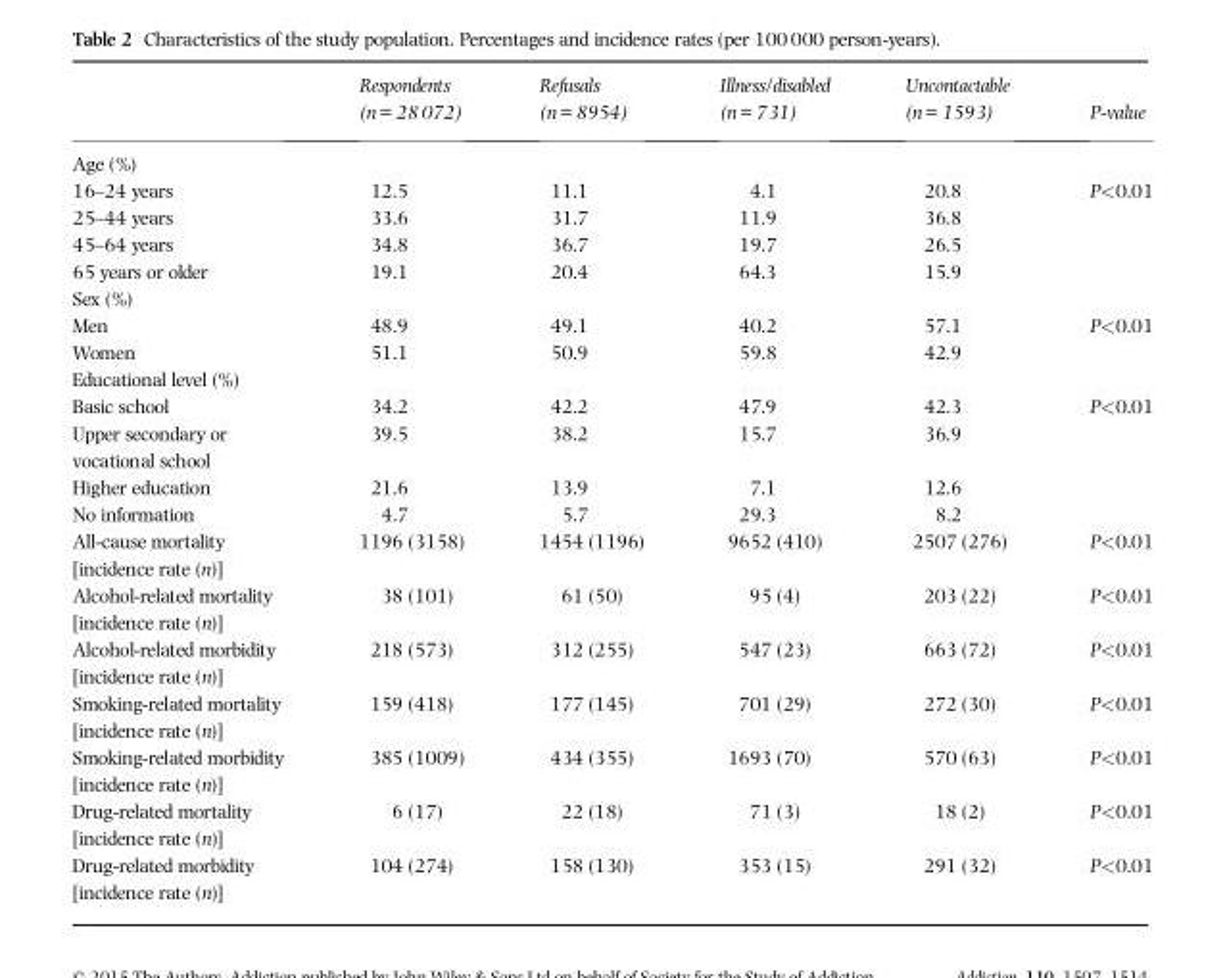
<table><thead><tr><td></td><td>Respondents (n = 28 072)</td><td>Refusals (n = 8954)</td><td>Illness/disabled (n = 731)</td><td>Uncontactable (n = 1593)</td><td>P-value</td></tr></thead><tbody><tr><td colspan="6">Age (%)</td></tr><tr><td>16–24 years</td><td>12.5</td><td>11.1</td><td>4.1</td><td>20.8</td><td>P&lt;0.01</td></tr><tr><td>25–44 years</td><td>33.6</td><td>31.7</td><td>11.9</td><td>36.8</td><td></td></tr><tr><td>45–64 years</td><td>34.8</td><td>36.7</td><td>19.7</td><td>26.5</td><td></td></tr><tr><td>65 years or older</td><td>19.1</td><td>20.4</td><td>64.3</td><td>15.9</td><td></td></tr><tr><td colspan="6">Sex (%)</td></tr><tr><td>Men</td><td>48.9</td><td>49.1</td><td>40.2</td><td>57.1</td><td>P&lt;0.01</td></tr><tr><td>Women</td><td>51.1</td><td>50.9</td><td>59.8</td><td>42.9</td><td></td></tr><tr><td colspan="6">Educational level (%)</td></tr><tr><td>Basic school</td><td>34.2</td><td>42.2</td><td>47.9</td><td>42.3</td><td>P&lt;0.01</td></tr><tr><td>Upper secondary or vocational school</td><td>39.5</td><td>38.2</td><td>15.7</td><td>36.9</td><td></td></tr><tr><td>Higher education</td><td>21.6</td><td>13.9</td><td>7.1</td><td>12.6</td><td></td></tr><tr><td>No information</td><td>4.7</td><td>5.7</td><td>29.3</td><td>8.2</td><td></td></tr><tr><td>All-cause mortality [incidence rate (n)]</td><td>1196 (3158)</td><td>1454 (1196)</td><td>9652 (410)</td><td>2507 (276)</td><td>P&lt;0.01</td></tr><tr><td>Alcohol-related mortality [incidence rate (n)]</td><td>38 (101)</td><td>61 (50)</td><td>95 (4)</td><td>203 (22)</td><td>P&lt;0.01</td></tr><tr><td>Alcohol-related morbidity [incidence rate (n)]</td><td>218 (573)</td><td>312 (255)</td><td>547 (23)</td><td>663 (72)</td><td>P&lt;0.01</td></tr><tr><td>Smoking-related mortality [incidence rate (n)]</td><td>159 (418)</td><td>177 (145)</td><td>701 (29)</td><td>272 (30)</td><td>P&lt;0.01</td></tr><tr><td>Smoking-related morbidity [incidence rate (n)]</td><td>385 (1009)</td><td>434 (355)</td><td>1693 (70)</td><td>570 (63)</td><td>P&lt;0.01</td></tr><tr><td>Drug-related mortality [incidence rate (n)]</td><td>6 (17)</td><td>22 (18)</td><td>71 (3)</td><td>18 (2)</td><td>P&lt;0.01</td></tr><tr><td>Drug-related morbidity [incidence rate (n)]</td><td>104 (274)</td><td>158 (130)</td><td>353 (15)</td><td>291 (32)</td><td>P&lt;0.01</td></tr></tbody></table>